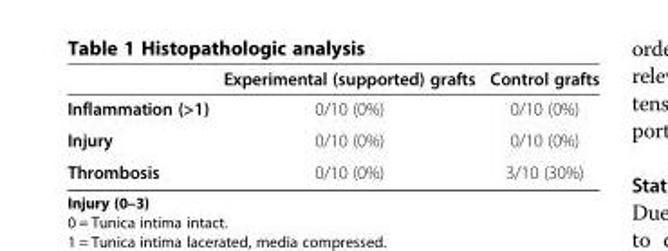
<table><thead><tr><td></td><td>Experimental (supported) grafts</td><td>Control grafts</td></tr></thead><tbody><tr><td>Inflammation (&gt;1)</td><td>0/10 (0%)</td><td>0/10 (0%)</td></tr><tr><td>Injury</td><td>0/10 (0%)</td><td>0/10 (0%)</td></tr><tr><td>Thrombosis</td><td>0/10 (0%)</td><td>3/10 (30%)</td></tr></tbody></table>